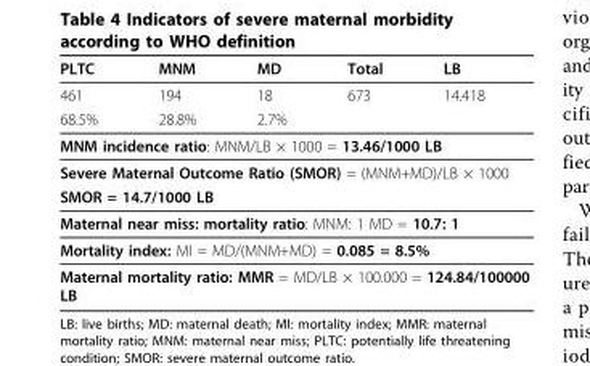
<table><thead><tr><td>PLTC</td><td>MNM</td><td>MD</td><td>Total</td><td>LB</td></tr></thead><tbody><tr><td>461</td><td>194</td><td>18</td><td>673</td><td>14.418</td></tr><tr><td>68.5%</td><td>28.8%</td><td>2.7%</td><td></td><td></td></tr><tr><td colspan="5">MNM incidence ratio: MNM/LB × 1000 = 13.46/1000 LB</td></tr><tr><td colspan="5">Severe Maternal Outcome Ratio (SMOR) = (MNM+MD)/LB × 1000</td></tr><tr><td colspan="5">SMOR = 14.7/1000 LB</td></tr><tr><td colspan="5">Maternal near miss: mortality ratio: MNM: 1 MD = 10.7: 1</td></tr><tr><td colspan="5">Mortality index: MI = MD/(MNM+MD) = 0.085 = 8.5%</td></tr><tr><td colspan="5">Maternal mortality ratio: MMR = MD/LB × 100.000 = 124.84/100000 LB</td></tr></tbody></table>